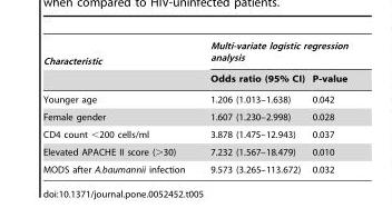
<table><thead><tr><td rowspan="2">Characteristic</td><td colspan="2">Multi-variate logistic regression analysis</td></tr><tr><td>Odds ratio (95% CI)</td><td>P-value</td></tr></thead><tbody><tr><td>Younger age</td><td>1.206 (1.013–1.638)</td><td>0.042</td></tr><tr><td>Female gender</td><td>1.607 (1.230–2.998)</td><td>0.028</td></tr><tr><td>CD4 count &lt;200 cells/ml</td><td>3.878 (1.475–12.943)</td><td>0.037</td></tr><tr><td>Elevated APACHE II score (&gt;30)</td><td>7.232 (1.567–18.479)</td><td>0.010</td></tr><tr><td>MODS after A.baumannii infection</td><td>9.573 (3.265–113.672)</td><td>0.032</td></tr></tbody></table>